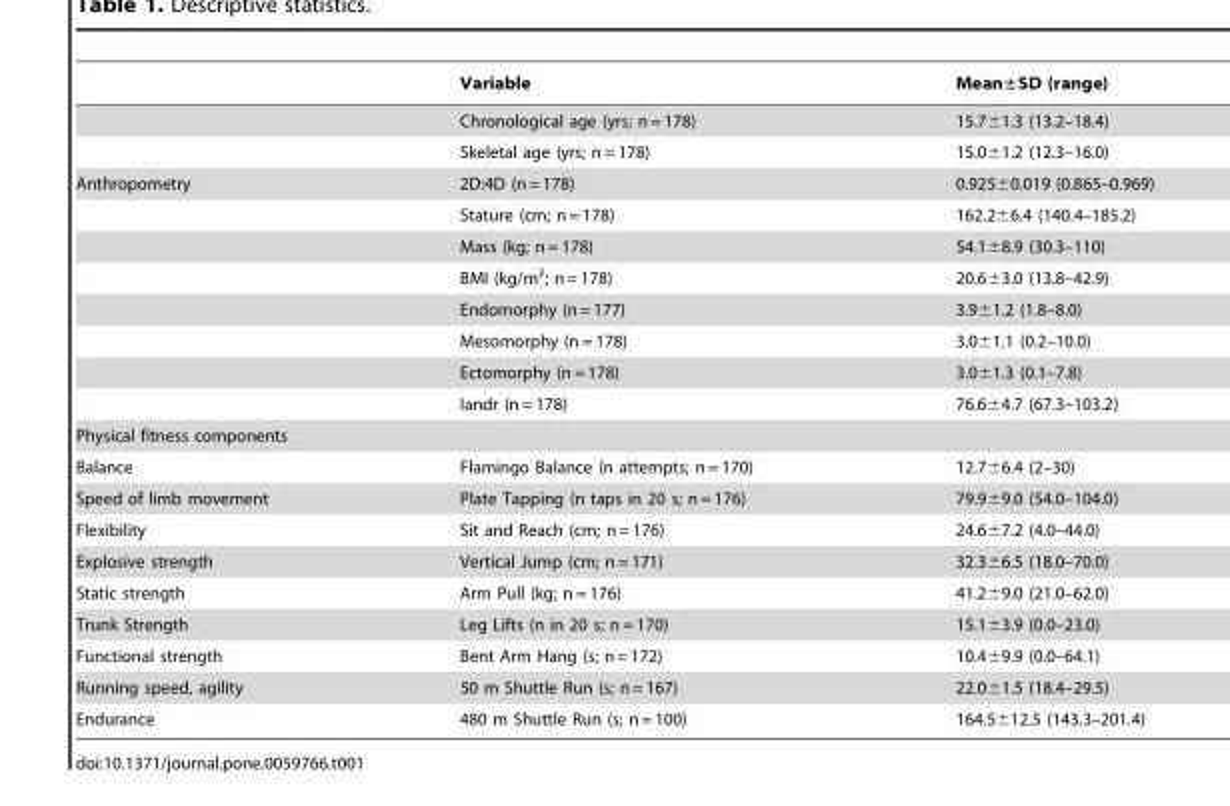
<table><thead><tr><td></td><td>Variable</td><td>Mean±SD (range)</td></tr></thead><tbody><tr><td></td><td>Chronological age (yrs; n = 178)</td><td>15.7±1.3 (13.2–18.4)</td></tr><tr><td></td><td>Skeletal age (yrs; n = 178)</td><td>15.0±1.2 (12.3–16.0)</td></tr><tr><td rowspan="8">Anthropometry</td><td>2D:4D (n = 178)</td><td>0.925±0.019 (0.865–0.969)</td></tr><tr><td>Stature (cm; n = 178)</td><td>162.2±6.4 (140.4–185.2)</td></tr><tr><td>Mass (kg; n = 178)</td><td>54.1±8.9 (30.3–110)</td></tr><tr><td>BMI (kg/m<sup>2</sup>; n = 178)</td><td>20.6±3.0 (13.8–42.9)</td></tr><tr><td>Endomorphy (n = 177)</td><td>3.9±1.2 (1.8–8.0)</td></tr><tr><td>Mesomorphy (n = 178)</td><td>3.0±1.1 (0.2–10.0)</td></tr><tr><td>Ectomorphy (n = 178)</td><td>3.0±1.3 (0.1–7.8)</td></tr><tr><td>Iandr (n = 178)</td><td>76.6±4.7 (67.3–103.2)</td></tr><tr><td colspan="3">Physical fitness components</td></tr><tr><td>Balance</td><td>Flamingo Balance (n attempts; n = 170)</td><td>12.7±6.4 (2–30)</td></tr><tr><td>Speed of limb movement</td><td>Plate Tapping (n taps in 20 s; n = 176)</td><td>79.9±9.0 (54.0–104.0)</td></tr><tr><td>Flexibility</td><td>Sit and Reach (cm; n = 176)</td><td>24.6±7.2 (4.0–44.0)</td></tr><tr><td>Explosive strength</td><td>Vertical Jump (cm; n = 171)</td><td>32.3±6.5 (18.0–70.0)</td></tr><tr><td>Static strength</td><td>Arm Pull (kg; n = 176)</td><td>41.2±9.0 (21.0–62.0)</td></tr><tr><td>Trunk Strength</td><td>Leg Lifts (n in 20 s; n = 170)</td><td>15.1±3.9 (0.0–23.0)</td></tr><tr><td>Functional strength</td><td>Bent Arm Hang (s; n = 172)</td><td>10.4±9.9 (0.0–64.1)</td></tr><tr><td>Running speed, agility</td><td>50 m Shuttle Run (s; n = 167)</td><td>22.0±1.5 (18.4–29.5)</td></tr><tr><td>Endurance</td><td>480 m Shuttle Run (s; n = 100)</td><td>164.5±12.5 (143.3–201.4)</td></tr></tbody></table>